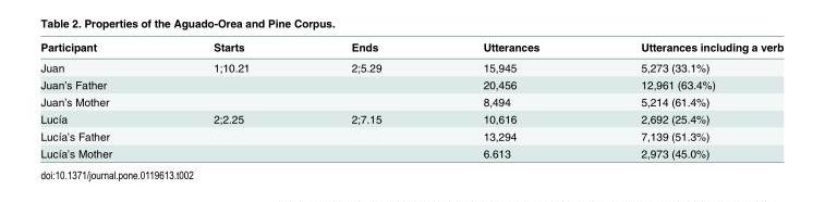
<table><thead><tr><td>Participant</td><td>Starts</td><td>Ends</td><td>Utterances</td><td>Utterances including a verb</td></tr></thead><tbody><tr><td>Juan</td><td>1;10.21</td><td>2;5.29</td><td>15,945</td><td>5,273 (33.1%)</td></tr><tr><td>Juan’s Father</td><td></td><td></td><td>20,456</td><td>12,961 (63.4%)</td></tr><tr><td>Juan’s Mother</td><td></td><td></td><td>8,494</td><td>5,214 (61.4%)</td></tr><tr><td>Lucía</td><td>2;2.25</td><td>2;7.15</td><td>10,616</td><td>2,692 (25.4%)</td></tr><tr><td>Lucía’s Father</td><td></td><td></td><td>13,294</td><td>7,139 (51.3%)</td></tr><tr><td>Lucía’s Mother</td><td></td><td></td><td>6.613</td><td>2,973 (45.0%)</td></tr></tbody></table>